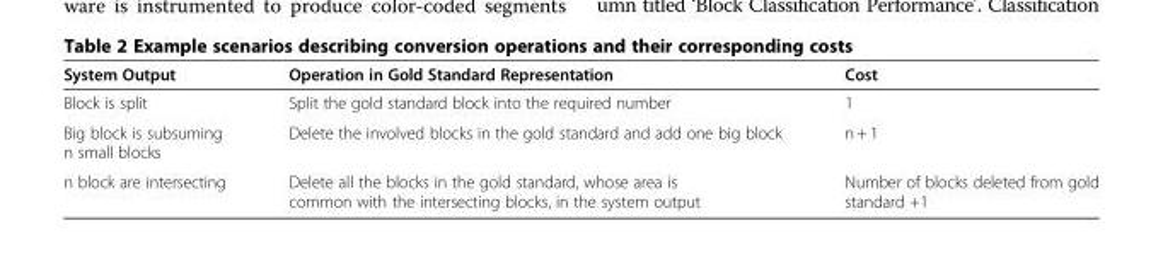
<table><thead><tr><td>System Output</td><td>Operation in Gold Standard Representation</td><td>Cost</td></tr></thead><tbody><tr><td>Block is split</td><td>Split the gold standard block into the required number</td><td>1</td></tr><tr><td>Big block is subsuming n small blocks</td><td>Delete the involved blocks in the gold standard and add one big block</td><td>n + 1</td></tr><tr><td>n block are intersecting</td><td>Delete all the blocks in the gold standard, whose area is common with the intersecting blocks, in the system output</td><td>Number of blocks deleted from gold standard +1</td></tr></tbody></table>